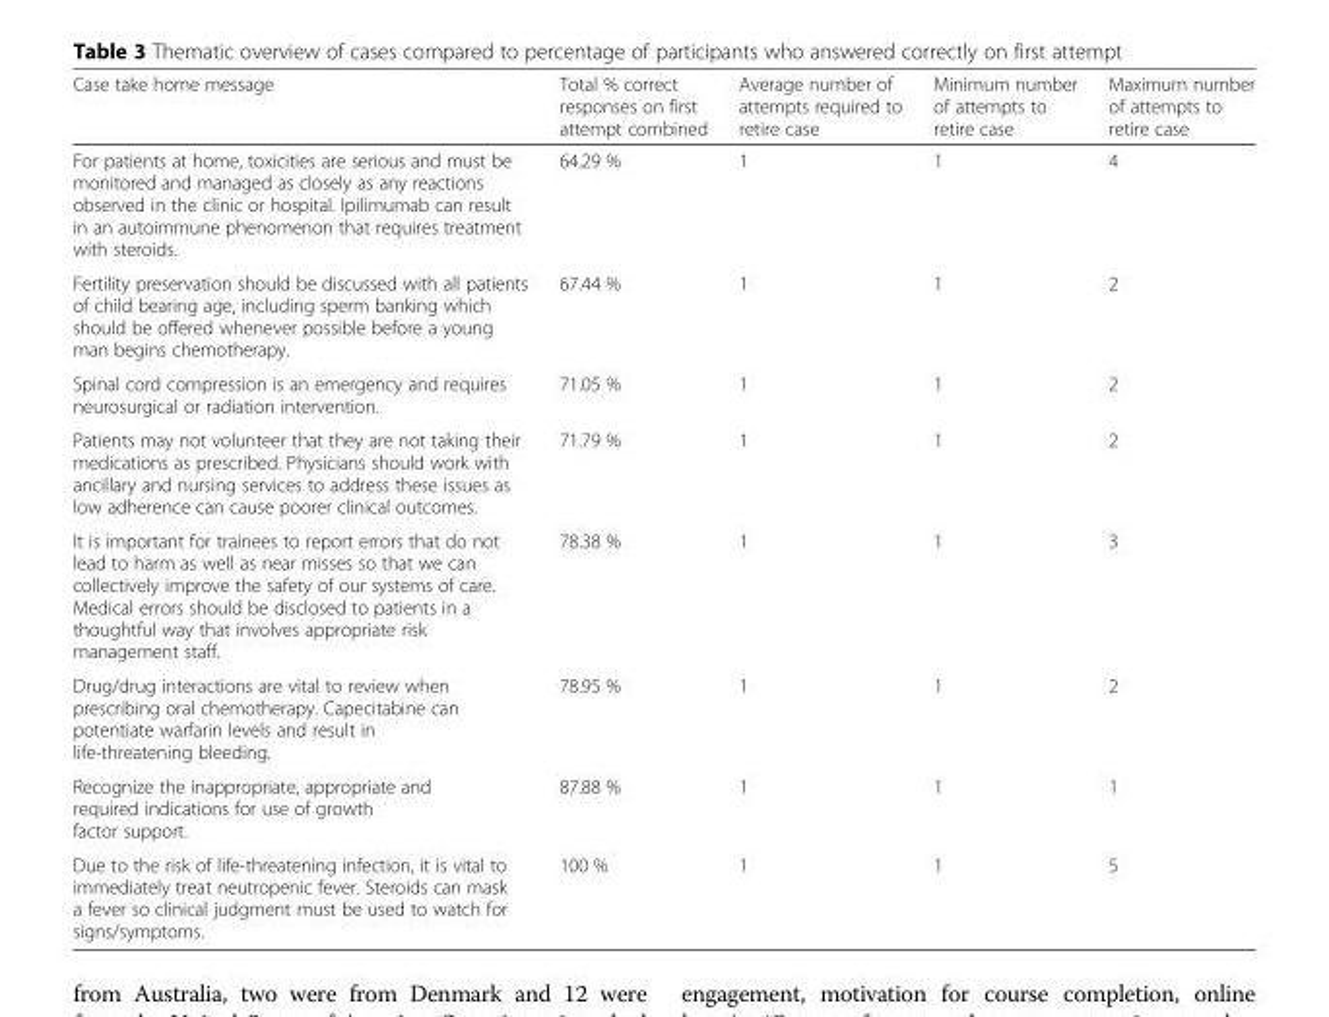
<table><thead><tr><td>Case take home message</td><td>Total % correct responses on first attempt combined</td><td>Average number of attempts required to retire case</td><td>Minimum number of attempts to retire case</td><td>Maximum number of attempts to retire case</td></tr></thead><tbody><tr><td>For patients at home, toxicities are serious and must be monitored and managed as closely as any reactions observed in the clinic or hospital. Ipilimumab can result in an autoimmune phenomenon that requires treatment with steroids.</td><td>64.29 %</td><td>1</td><td>1</td><td>4</td></tr><tr><td>Fertility preservation should be discussed with all patients of child bearing age, including sperm banking which should be offered whenever possible before a young man begins chemotherapy.</td><td>67.44 %</td><td>1</td><td>1</td><td>2</td></tr><tr><td>Spinal cord compression is an emergency and requires neurosurgical or radiation intervention.</td><td>71.05 %</td><td>1</td><td>1</td><td>2</td></tr><tr><td>Patients may not volunteer that they are not taking their medications as prescribed. Physicians should work with ancillary and nursing services to address these issues as low adherence can cause poorer clinical outcomes.</td><td>71.79 %</td><td>1</td><td>1</td><td>2</td></tr><tr><td>It is important for trainees to report errors that do not lead to harm as well as near misses so that we can collectively improve the safety of our systems of care. Medical errors should be disclosed to patients in a thoughtful way that involves appropriate risk management staff.</td><td>78.38 %</td><td>1</td><td>1</td><td>3</td></tr><tr><td>Drug/drug interactions are vital to review when prescribing oral chemotherapy. Capecitabine can potentiate warfarin levels and result in life-threatening bleeding.</td><td>78.95 %</td><td>1</td><td>1</td><td>2</td></tr><tr><td>Recognize the inappropriate, appropriate and required indications for use of growth factor support.</td><td>87.88 %</td><td>1</td><td>1</td><td>1</td></tr><tr><td>Due to the risk of life-threatening infection, it is vital to immediately treat neutropenic fever. Steroids can mask a fever so clinical judgment must be used to watch for signs/symptoms.</td><td>100 %</td><td>1</td><td>1</td><td>5</td></tr></tbody></table>